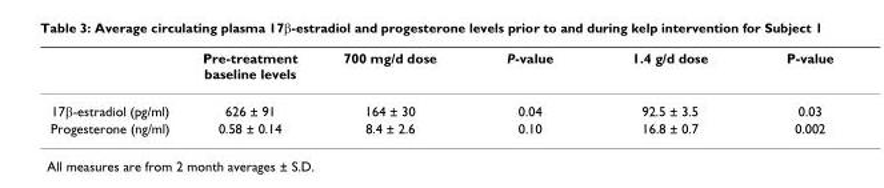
<table><thead><tr><td></td><td>Pre-treatment baseline levels</td><td>700 mg/d dose</td><td>P-value</td><td>1.4 g/d dose</td><td>P-value</td></tr></thead><tbody><tr><td>17β-estradiol (pg/ml)</td><td>626 ± 91</td><td>164 ± 30</td><td>0.04</td><td>92.5 ± 3.5</td><td>0.03</td></tr><tr><td>Progesterone (ng/ml)</td><td>0.58 ± 0.14</td><td>8.4 ± 2.6</td><td>0.10</td><td>16.8 ± 0.7</td><td>0.002</td></tr></tbody></table>